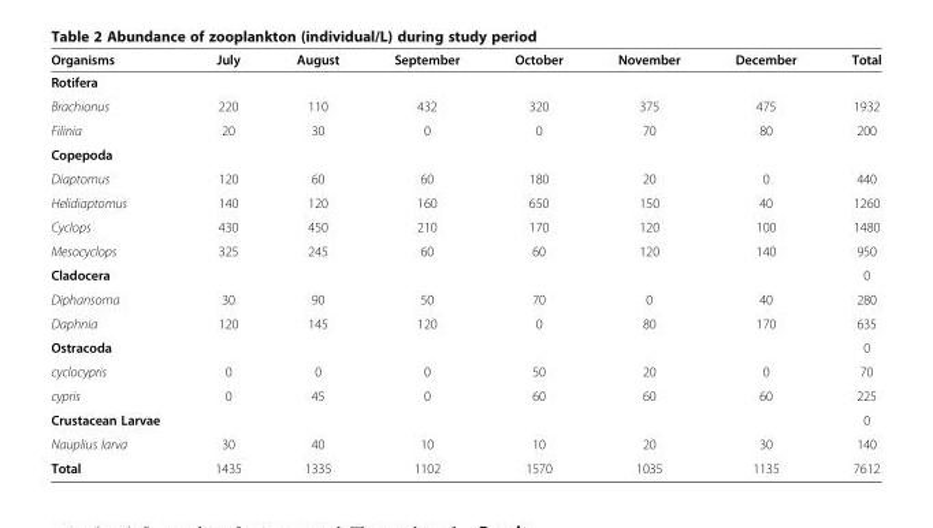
<table><thead><tr><td>Organisms</td><td>July</td><td>August</td><td>September</td><td>October</td><td>November</td><td>December</td><td>Total</td></tr></thead><tbody><tr><td colspan="8">Rotifera</td></tr><tr><td>Brachionus</td><td>220</td><td>110</td><td>432</td><td>320</td><td>375</td><td>475</td><td>1932</td></tr><tr><td>Filinia</td><td>20</td><td>30</td><td>0</td><td>0</td><td>70</td><td>80</td><td>200</td></tr><tr><td colspan="8">Copepoda</td></tr><tr><td>Diaptomus</td><td>120</td><td>60</td><td>60</td><td>180</td><td>20</td><td>0</td><td>440</td></tr><tr><td>Helidiaptomus</td><td>140</td><td>120</td><td>160</td><td>650</td><td>150</td><td>40</td><td>1260</td></tr><tr><td>Cyclops</td><td>430</td><td>450</td><td>210</td><td>170</td><td>120</td><td>100</td><td>1480</td></tr><tr><td>Mesocyclops</td><td>325</td><td>245</td><td>60</td><td>60</td><td>120</td><td>140</td><td>950</td></tr><tr><td>Cladocera</td><td></td><td></td><td></td><td></td><td></td><td></td><td>0</td></tr><tr><td>Diphansoma</td><td>30</td><td>90</td><td>50</td><td>70</td><td>0</td><td>40</td><td>280</td></tr><tr><td>Daphnia</td><td>120</td><td>145</td><td>120</td><td>0</td><td>80</td><td>170</td><td>635</td></tr><tr><td>Ostracoda</td><td></td><td></td><td></td><td></td><td></td><td></td><td>0</td></tr><tr><td>cyclocypris</td><td>0</td><td>0</td><td>0</td><td>50</td><td>20</td><td>0</td><td>70</td></tr><tr><td>cypris</td><td>0</td><td>45</td><td>0</td><td>60</td><td>60</td><td>60</td><td>225</td></tr><tr><td>Crustacean Larvae</td><td></td><td></td><td></td><td></td><td></td><td></td><td>0</td></tr><tr><td>Nauplius larva</td><td>30</td><td>40</td><td>10</td><td>10</td><td>20</td><td>30</td><td>140</td></tr><tr><td>Total</td><td>1435</td><td>1335</td><td>1102</td><td>1570</td><td>1035</td><td>1135</td><td>7612</td></tr></tbody></table>